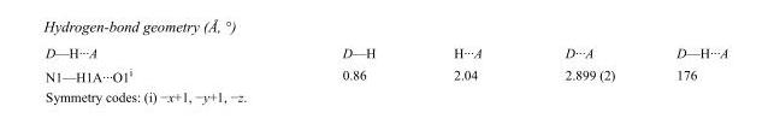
<table><tbody><tr><td>D—H···A</td><td>D—H</td><td>H···A</td><td>D···A</td><td>D—H···A</td></tr><tr><td>N1—H1A···O1<sup>i</sup></td><td>0.86</td><td>2.04</td><td>2.899 (2)</td><td>176</td></tr></tbody></table>